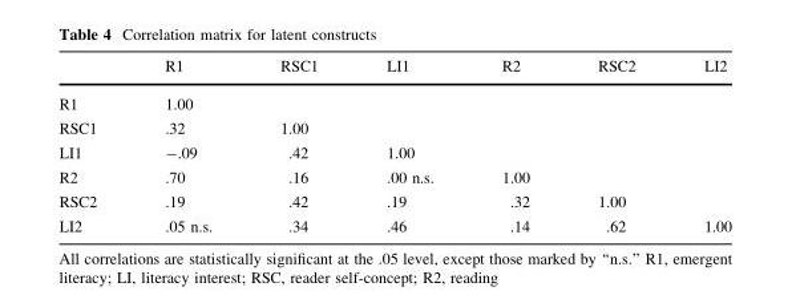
<table><thead><tr><td></td><td>R1</td><td>RSC1</td><td>LI1</td><td>R2</td><td>RSC2</td><td>LI2</td></tr></thead><tbody><tr><td>R1</td><td>1.00</td><td></td><td></td><td></td><td></td><td></td></tr><tr><td>RSC1</td><td>.32</td><td>1.00</td><td></td><td></td><td></td><td></td></tr><tr><td>LI1</td><td>-.09</td><td>.42</td><td>1.00</td><td></td><td></td><td></td></tr><tr><td>R2</td><td>.70</td><td>.16</td><td>.00 n.s.</td><td>1.00</td><td></td><td></td></tr><tr><td>RSC2</td><td>.19</td><td>.42</td><td>.19</td><td>.32</td><td>1.00</td><td></td></tr><tr><td>LI2</td><td>.05 n.s.</td><td>.34</td><td>.46</td><td>.14</td><td>.62</td><td>1.00</td></tr></tbody></table>